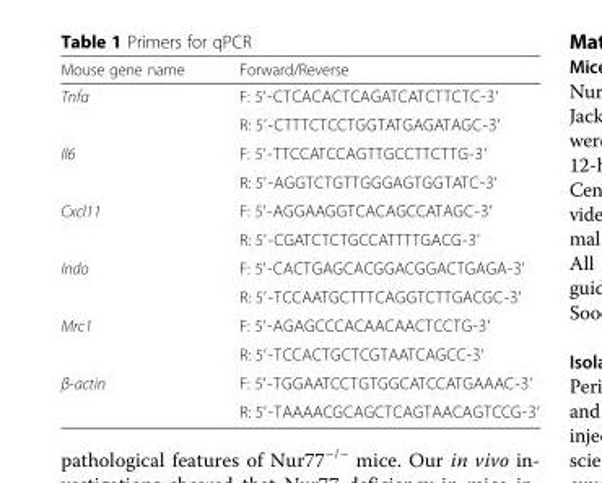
<table><thead><tr><td>Mouse gene name</td><td>Forward/Reverse</td></tr></thead><tbody><tr><td rowspan="2">Tnfα</td><td>F: 5′-CTCACACTCAGATCATCTTCTC-3′</td></tr><tr><td>R: 5′-CTTTCTCCTGGTATGAGATAGC-3′</td></tr><tr><td rowspan="2">Il6</td><td>F: 5′-TTCCATCCAGTTGCCTTCTTG-3′</td></tr><tr><td>R: 5′-AGGTCTGTTGGGAGTGGTATC-3′</td></tr><tr><td rowspan="2">Cxcl11</td><td>F: 5′-AGGAAGGTCACAGCCATAGC-3′</td></tr><tr><td>R: 5′-CGATCTCTGCCATTTTGACG-3′</td></tr><tr><td rowspan="2">Indo</td><td>F: 5′-CACTGAGCACGGACGGACTGAGA-3′</td></tr><tr><td>R: 5′-TCCAATGCTTTCAGGTCTTGACGC-3′</td></tr><tr><td rowspan="2">Mrc1</td><td>F: 5′-AGAGCCCACAACAACTCCTG-3′</td></tr><tr><td>R: 5′-TCCACTGCTCGTAATCAGCC-3′</td></tr><tr><td rowspan="2">β-actin</td><td>F: 5′-TGGAATCCTGTGGCATCCATGAAAC-3′</td></tr><tr><td>R: 5′-TAAAACGCAGCTCAGTAACAGTCCG-3′</td></tr></tbody></table>